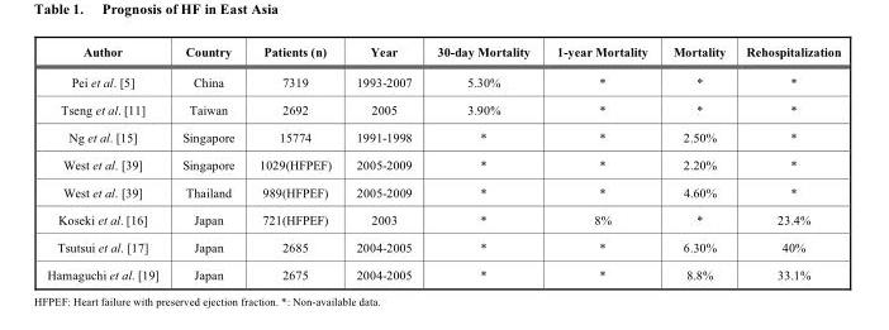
<table><thead><tr><td>Author</td><td>Country</td><td>Patients (n)</td><td>Year</td><td>30-day Mortality</td><td>1-year Mortality</td><td>Mortality</td><td>Rehospitalization</td></tr></thead><tbody><tr><td>Pei et al. [5]</td><td>China</td><td>7319</td><td>1993-2007</td><td>5.30%</td><td>*</td><td>*</td><td>*</td></tr><tr><td>Tseng et al. [11]</td><td>Taiwan</td><td>2692</td><td>2005</td><td>3.90%</td><td>*</td><td>*</td><td>*</td></tr><tr><td>Ng et al. [15]</td><td>Singapore</td><td>15774</td><td>1991-1998</td><td>*</td><td>*</td><td>2.50%</td><td>*</td></tr><tr><td>West et al. [39]</td><td>Singapore</td><td>1029(HFPEF)</td><td>2005-2009</td><td>*</td><td>*</td><td>2.20%</td><td>*</td></tr><tr><td>West et al. [39]</td><td>Thailand</td><td>989(HFPEF)</td><td>2005-2009</td><td>*</td><td>*</td><td>4.60%</td><td>*</td></tr><tr><td>Koseki et al. [16]</td><td>Japan</td><td>721(HFPEF)</td><td>2003</td><td>*</td><td>8%</td><td>*</td><td>23.4%</td></tr><tr><td>Tsutsui et al. [17]</td><td>Japan</td><td>2685</td><td>2004-2005</td><td>*</td><td>*</td><td>6.30%</td><td>40%</td></tr><tr><td>Hamaguchi et al. [19]</td><td>Japan</td><td>2675</td><td>2004-2005</td><td>*</td><td>*</td><td>8.8%</td><td>33.1%</td></tr></tbody></table>